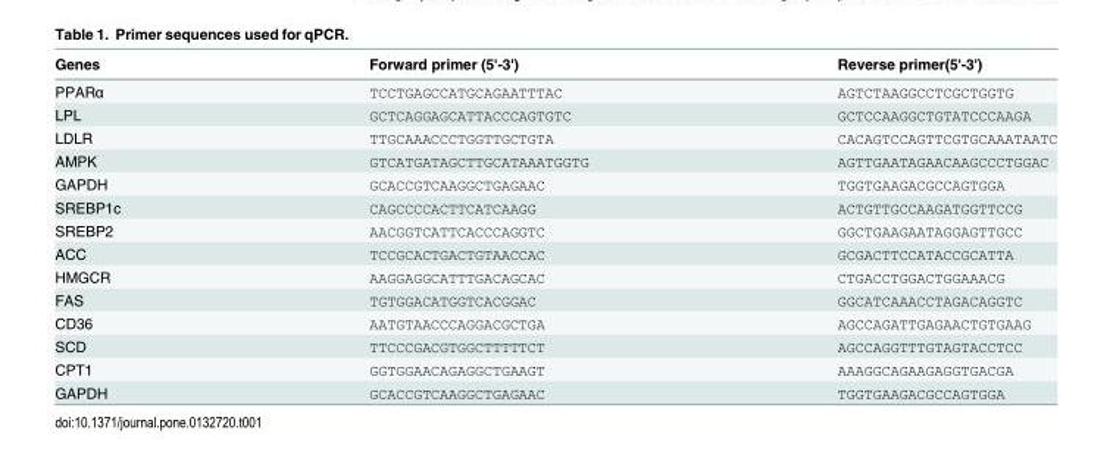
<table><thead><tr><td>Genes</td><td>Forward primer (5&#x27;-3&#x27;)</td><td>Reverse primer(5&#x27;-3&#x27;)</td></tr></thead><tbody><tr><td>PPARα</td><td>TCCTGAGCCATGCAGAATTTAC</td><td>AGTCTAAGGCCTCGCTGGTG</td></tr><tr><td>LPL</td><td>GCTCAGGAGCATTACCCAGTGTC</td><td>GCTCCAAGGCTGTATCCCAAGA</td></tr><tr><td>LDLR</td><td>TTGCAAACCCTGGTTGCTGTA</td><td>CACAGTCCAGTTCGTGCAAATAATC</td></tr><tr><td>AMPK</td><td>GTCATGATAGCTTGCATAAATGGTG</td><td>AGTTGAATAGAACAAGCCCTGGAC</td></tr><tr><td>GAPDH</td><td>GCACCGTCAAGGCTGAGAAC</td><td>TGGTGAAGACGCCAGTGGA</td></tr><tr><td>SREBP1c</td><td>CAGCCCCACTTCATCAAGG</td><td>ACTGTTGCCAAGATGGTTCCG</td></tr><tr><td>SREBP2</td><td>AACGGTCATTCACCCAGGTC</td><td>GGCTGAAGAATAGGAGTTGCC</td></tr><tr><td>ACC</td><td>TCCGCACTGACTGTAACCAC</td><td>GCGACTTCCATACCGCATTA</td></tr><tr><td>HMGCR</td><td>AAGGAGGCATTTGACAGCAC</td><td>CTGACCTGGACTGGAAACG</td></tr><tr><td>FAS</td><td>TGTGGACATGGTCACGGAC</td><td>GGCATCAAACCTAGACAGGTC</td></tr><tr><td>CD36</td><td>AATGTAACCCAGGACGCTGA</td><td>AGCCAGATTGAGAACTGTGAAG</td></tr><tr><td>SCD</td><td>TTCCCGACGTGGCTTTTTCT</td><td>AGCCAGGTTTGTAGTACCTCC</td></tr><tr><td>CPT1</td><td>GGTGGAACAGAGGCTGAAGT</td><td>AAAGGCAGAAGAGGTGACGA</td></tr><tr><td>GAPDH</td><td>GCACCGTCAAGGCTGAGAAC</td><td>TGGTGAAGACGCCAGTGGA</td></tr></tbody></table>